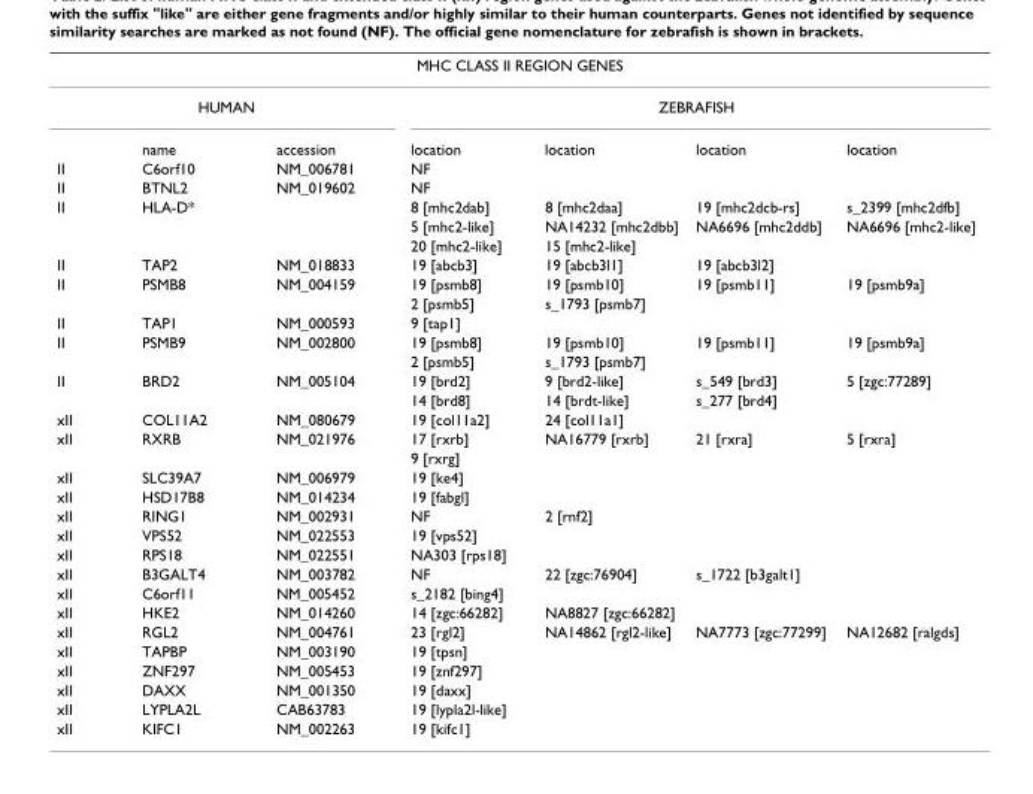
<table><thead><tr><td colspan="7">MHC CLASS II REGION GENES</td></tr><tr><td colspan="3">HUMAN</td><td colspan="4">ZEBRAFISH</td></tr><tr><td></td><td>name</td><td>accession</td><td>location</td><td>location</td><td>location</td><td>location</td></tr></thead><tbody><tr><td>II</td><td>C6orf10</td><td>NM_006781</td><td>NF</td><td></td><td></td><td></td></tr><tr><td>II</td><td>BTNL2</td><td>NM_019602</td><td>NF</td><td></td><td></td><td></td></tr><tr><td rowspan="3">II</td><td>HLA-D*</td><td></td><td>8 [mhc2dab]</td><td>8 [mhc2daa]</td><td>19 [mhc2dcb-rs]</td><td>s_2399 [mhc2dfb]</td></tr><tr><td></td><td></td><td>5 [mhc2-like]</td><td>NA14232 [mhc2dbb]</td><td>NA6696 [mhc2ddb]</td><td>NA6696 [mhc2-like]</td></tr><tr><td></td><td></td><td>20 [mhc2-like]</td><td>15 [mhc2-like]</td><td></td><td></td></tr><tr><td>II</td><td>TAP2</td><td>NM_018833</td><td>19 [abcb3]</td><td>19 [abcb3l1]</td><td>19 [abcb3l2]</td><td></td></tr><tr><td rowspan="2">II</td><td>PSMB8</td><td>NM_004159</td><td>19 [psmb8]</td><td>19 [psmb10]</td><td>19 [psmb11]</td><td>19 [psmb9a]</td></tr><tr><td></td><td></td><td>2 [psmb5]</td><td>s_1793 [psmb7]</td><td></td><td></td></tr><tr><td>II</td><td>TAP1</td><td>NM_000593</td><td>9 [tap1]</td><td></td><td></td><td></td></tr><tr><td rowspan="2">II</td><td>PSMB9</td><td>NM_002800</td><td>19 [psmb8]</td><td>19 [psmb10]</td><td>19 [psmb11]</td><td>19 [psmb9a]</td></tr><tr><td></td><td></td><td>2 [psmb5]</td><td>s_1793 [psmb7]</td><td></td><td></td></tr><tr><td rowspan="2">II</td><td>BRD2</td><td>NM_005104</td><td>19 [brd2]</td><td>9 [brd2-like]</td><td>s_549 [brd3]</td><td>5 [zgc:77289]</td></tr><tr><td></td><td></td><td>14 [brd8]</td><td>14 [brdt-like]</td><td>s_277 [brd4]</td><td></td></tr><tr><td>xII</td><td>COL11A2</td><td>NM_080679</td><td>19 [col11a2]</td><td>24 [col11a1]</td><td></td><td></td></tr><tr><td rowspan="2">xII</td><td>RXRB</td><td>NM_021976</td><td>17 [rxrb]</td><td>NA16779 [rxrb]</td><td>21 [rxra]</td><td>5 [rxra]</td></tr><tr><td></td><td></td><td>9 [rxrg]</td><td></td><td></td><td></td></tr><tr><td>xII</td><td>SLC39A7</td><td>NM_006979</td><td>19 [ke4]</td><td></td><td></td><td></td></tr><tr><td>xII</td><td>HSD17B8</td><td>NM_014234</td><td>19 [fabgl]</td><td></td><td></td><td></td></tr><tr><td>xII</td><td>RING1</td><td>NM_002931</td><td>NF</td><td>2 [rnf2]</td><td></td><td></td></tr><tr><td>xII</td><td>VPS52</td><td>NM_022553</td><td>19 [vps52]</td><td></td><td></td><td></td></tr><tr><td>xII</td><td>RPS18</td><td>NM_022551</td><td>NA303 [rps18]</td><td></td><td></td><td></td></tr><tr><td>xII</td><td>B3GALT4</td><td>NM_003782</td><td>NF</td><td>22 [zgc:76904]</td><td>s_1722 [b3galt1]</td><td></td></tr><tr><td>xII</td><td>C6orf11</td><td>NM_005452</td><td>s_2182 [bing4]</td><td></td><td></td><td></td></tr><tr><td>xII</td><td>HKE2</td><td>NM_014260</td><td>14 [zgc:66282]</td><td>NA8827 [zgc:66282]</td><td></td><td></td></tr><tr><td>xII</td><td>RGL2</td><td>NM_004761</td><td>23 [rgl2]</td><td>NA14862 [rgl2-like]</td><td>NA7773 [zgc:77299]</td><td>NA12682 [ralgds]</td></tr><tr><td>xII</td><td>TAPBP</td><td>NM_003190</td><td>19 [tpsn]</td><td></td><td></td><td></td></tr><tr><td>xII</td><td>ZNF297</td><td>NM_005453</td><td>19 [znf297]</td><td></td><td></td><td></td></tr><tr><td>xII</td><td>DAXX</td><td>NM_001350</td><td>19 [daxx]</td><td></td><td></td><td></td></tr><tr><td>xII</td><td>LYPLA2L</td><td>CAB63783</td><td>19 [lypla2l-like]</td><td></td><td></td><td></td></tr><tr><td>xII</td><td>KIFC1</td><td>NM_002263</td><td>19 [kifc1]</td><td></td><td></td><td></td></tr></tbody></table>